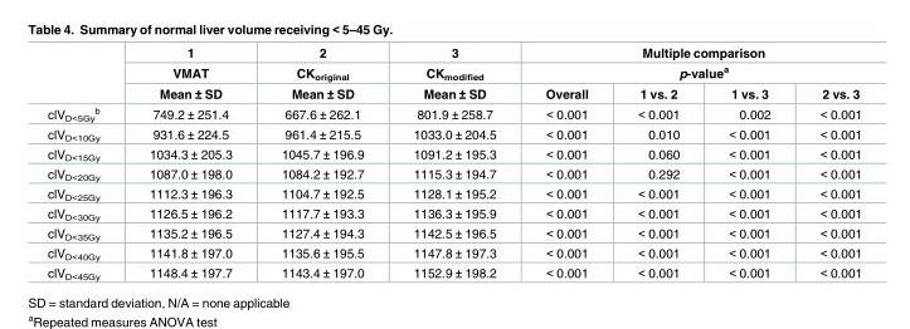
<table><thead><tr><td rowspan="3"></td><td rowspan="3">1 VMAT Mean ± SD</td><td rowspan="3">2 CK<sub>original</sub> Mean ± SD</td><td rowspan="3">3 CK<sub>modified</sub> Mean ± SD</td><td rowspan="2" colspan="4">Multiple comparison p-value<sup>a</sup></td></tr><tr></tr><tr><td>Overall</td><td>1 vs. 2</td><td>1 vs. 3</td><td>2 vs. 3</td></tr></thead><tbody><tr><td>clV<sub>D&lt;5Gy</sub> <sup>b</sup></td><td>749.2 ± 251.4</td><td>667.6 ± 262.1</td><td>801.9 ± 258.7</td><td>&lt; 0.001</td><td>&lt; 0.001</td><td>0.002</td><td>&lt; 0.001</td></tr><tr><td>clV<sub>D&lt;10Gy</sub></td><td>931.6 ± 224.5</td><td>961.4 ± 215.5</td><td>1033.0 ± 204.5</td><td>&lt; 0.001</td><td>0.010</td><td>&lt; 0.001</td><td>&lt; 0.001</td></tr><tr><td>clV<sub>D&lt;15Gy</sub></td><td>1034.3 ± 205.3</td><td>1045.7 ± 196.9</td><td>1091.2 ± 195.3</td><td>&lt; 0.001</td><td>0.060</td><td>&lt; 0.001</td><td>&lt; 0.001</td></tr><tr><td>clV<sub>D&lt;20Gy</sub></td><td>1087.0 ± 198.0</td><td>1084.2 ± 192.7</td><td>1115.3 ± 194.7</td><td>&lt; 0.001</td><td>0.292</td><td>&lt; 0.001</td><td>&lt; 0.001</td></tr><tr><td>clV<sub>D&lt;25Gy</sub></td><td>1112.3 ± 196.3</td><td>1104.7 ± 192.5</td><td>1128.1 ± 195.2</td><td>&lt; 0.001</td><td>&lt; 0.001</td><td>&lt; 0.001</td><td>&lt; 0.001</td></tr><tr><td>clV<sub>D&lt;30Gy</sub></td><td>1126.5 ± 196.2</td><td>1117.7 ± 193.3</td><td>1136.3 ± 195.9</td><td>&lt; 0.001</td><td>&lt; 0.001</td><td>&lt; 0.001</td><td>&lt; 0.001</td></tr><tr><td>clV<sub>D&lt;35Gy</sub></td><td>1135.2 ± 196.5</td><td>1127.4 ± 194.3</td><td>1142.5 ± 196.5</td><td>&lt; 0.001</td><td>&lt; 0.001</td><td>&lt; 0.001</td><td>&lt; 0.001</td></tr><tr><td>clV<sub>D&lt;40Gy</sub></td><td>1141.8 ± 197.0</td><td>1135.6 ± 195.5</td><td>1147.8 ± 197.3</td><td>&lt; 0.001</td><td>&lt; 0.001</td><td>&lt; 0.001</td><td>&lt; 0.001</td></tr><tr><td>clV<sub>D&lt;45Gy</sub></td><td>1148.4 ± 197.7</td><td>1143.4 ± 197.0</td><td>1152.9 ± 198.2</td><td>&lt; 0.001</td><td>&lt; 0.001</td><td>&lt; 0.001</td><td>&lt; 0.001</td></tr></tbody></table>